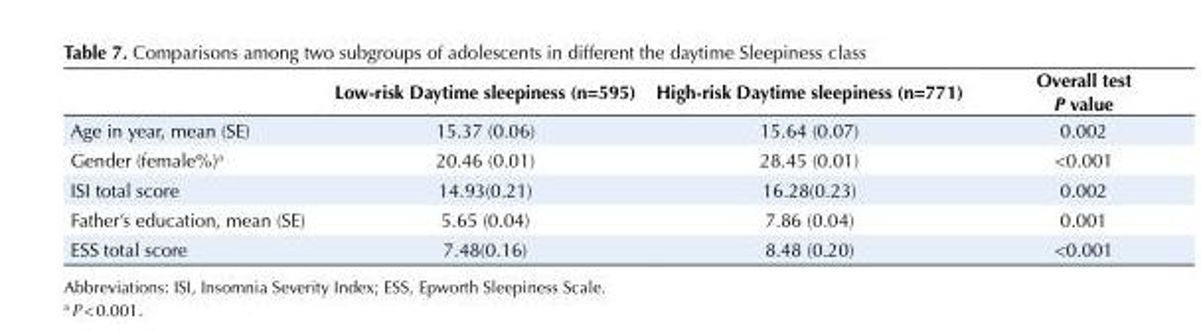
<table><thead><tr><td></td><td>Low-risk Daytime sleepiness (n=595)</td><td>High-risk Daytime sleepiness (n=771)</td><td>Overall test P value</td></tr></thead><tbody><tr><td>Age in year, mean (SE)</td><td>15.37 (0.06)</td><td>15.64 (0.07)</td><td>0.002</td></tr><tr><td>Gender (female%)<sup>a</sup></td><td>20.46 (0.01)</td><td>28.45 (0.01)</td><td>&lt;0.001</td></tr><tr><td>ISI total score</td><td>14.93(0.21)</td><td>16.28(0.23)</td><td>0.002</td></tr><tr><td>Father’s education, mean (SE)</td><td>5.65 (0.04)</td><td>7.86 (0.04)</td><td>0.001</td></tr><tr><td>ESS total score</td><td>7.48(0.16)</td><td>8.48 (0.20)</td><td>&lt;0.001</td></tr></tbody></table>